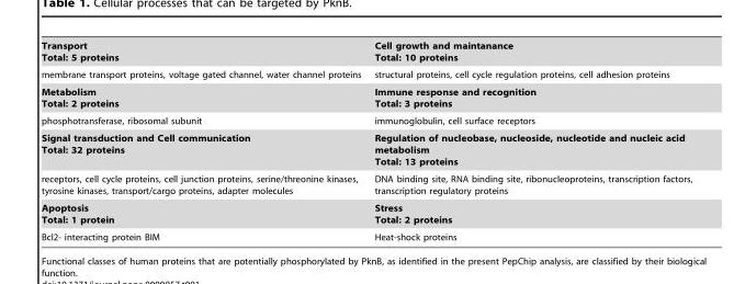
<table><tbody><tr><td>Transport Total: 5 proteins</td><td>Cell growth and maintanance Total: 10 proteins</td></tr><tr><td>membrane transport proteins, voltage gated channel, water channel proteins</td><td>structural proteins, cell cycle regulation proteins, cell adhesion proteins</td></tr><tr><td>Metabolism Total: 2 proteins</td><td>Immune response and recognition Total: 3 proteins</td></tr><tr><td>phosphotransferase, ribosomal subunit</td><td>immunoglobulin, cell surface receptors</td></tr><tr><td>Signal transduction and Cell communication Total: 32 proteins</td><td>Regulation of nucleobase, nucleoside, nucleotide and nucleic acid metabolism Total: 13 proteins</td></tr><tr><td>receptors, cell cycle proteins, cell junction proteins, serine/threonine kinases, tyrosine kinases, transport/cargo proteins, adapter molecules</td><td>DNA binding site, RNA binding site, ribonucleoproteins, transcription factors, transcription regulatory proteins</td></tr><tr><td>Apoptosis Total: 1 protein</td><td>Stress Total: 2 proteins</td></tr><tr><td>Bcl2- interacting protein BIM</td><td>Heat-shock proteins</td></tr></tbody></table>